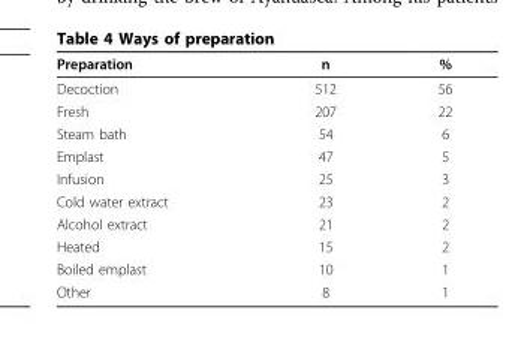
<table><thead><tr><td>Preparation</td><td>n</td><td>%</td></tr></thead><tbody><tr><td>Decoction</td><td>512</td><td>56</td></tr><tr><td>Fresh</td><td>207</td><td>22</td></tr><tr><td>Steam bath</td><td>54</td><td>6</td></tr><tr><td>Emplast</td><td>47</td><td>5</td></tr><tr><td>Infusion</td><td>25</td><td>3</td></tr><tr><td>Cold water extract</td><td>23</td><td>2</td></tr><tr><td>Alcohol extract</td><td>21</td><td>2</td></tr><tr><td>Heated</td><td>15</td><td>2</td></tr><tr><td>Boiled emplast</td><td>10</td><td>1</td></tr><tr><td>Other</td><td>8</td><td>1</td></tr></tbody></table>